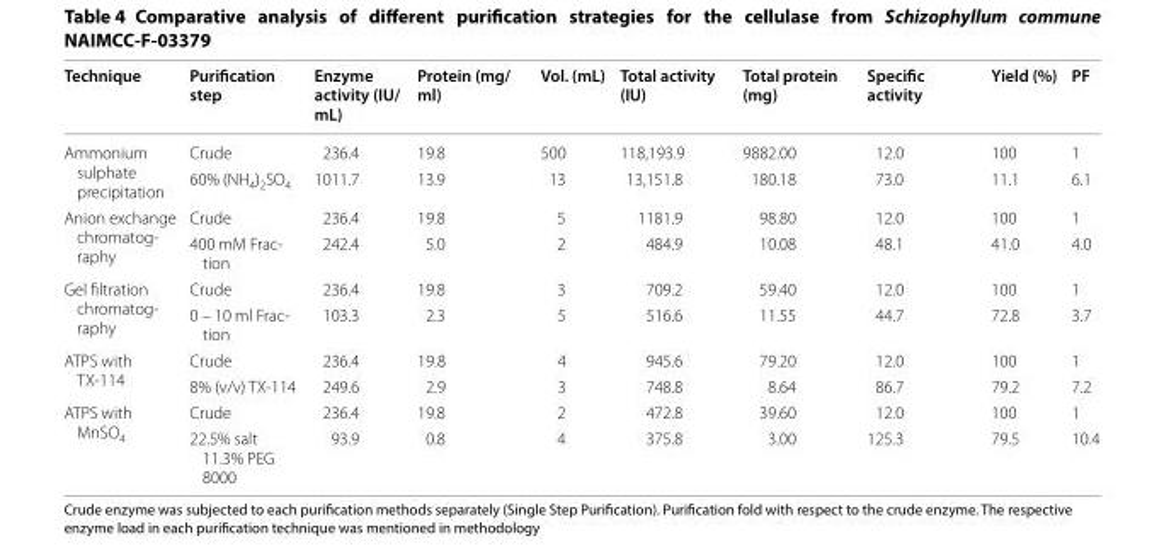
<table><thead><tr><td>Technique</td><td>Purification step</td><td>Enzyme activity (IU/ mL)</td><td>Protein (mg/ ml)</td><td>Vol. (mL)</td><td>Total activity (IU)</td><td>Total protein (mg)</td><td>Specific activity</td><td>Yield (%)</td><td>PF</td></tr></thead><tbody><tr><td rowspan="2">Ammonium sulphate precipitation</td><td>Crude</td><td>236.4</td><td>19.8</td><td>500</td><td>118,193.9</td><td>9882.00</td><td>12.0</td><td>100</td><td>1</td></tr><tr><td>60% (NH<sub>4</sub>)<sub>2</sub>SO<sub>4</sub></td><td>1011.7</td><td>13.9</td><td>13</td><td>13,151.8</td><td>180.18</td><td>73.0</td><td>11.1</td><td>6.1</td></tr><tr><td rowspan="2">Anion exchange chromatog- raphy</td><td>Crude</td><td>236.4</td><td>19.8</td><td>5</td><td>1181.9</td><td>98.80</td><td>12.0</td><td>100</td><td>1</td></tr><tr><td>400 mM Frac- tion</td><td>242.4</td><td>5.0</td><td>2</td><td>484.9</td><td>10.08</td><td>48.1</td><td>41.0</td><td>4.0</td></tr><tr><td rowspan="2">Gel filtration chromatog- raphy</td><td>Crude</td><td>236.4</td><td>19.8</td><td>3</td><td>709.2</td><td>59.40</td><td>12.0</td><td>100</td><td>1</td></tr><tr><td>0 – 10 ml Frac- tion</td><td>103.3</td><td>2.3</td><td>5</td><td>516.6</td><td>11.55</td><td>44.7</td><td>72.8</td><td>3.7</td></tr><tr><td rowspan="2">ATPS with TX-114</td><td>Crude</td><td>236.4</td><td>19.8</td><td>4</td><td>945.6</td><td>79.20</td><td>12.0</td><td>100</td><td>1</td></tr><tr><td>8% (v/v) TX-114</td><td>249.6</td><td>2.9</td><td>3</td><td>748.8</td><td>8.64</td><td>86.7</td><td>79.2</td><td>7.2</td></tr><tr><td rowspan="2">ATPS with MnSO<sub>4</sub></td><td>Crude</td><td>236.4</td><td>19.8</td><td>2</td><td>472.8</td><td>39.60</td><td>12.0</td><td>100</td><td>1</td></tr><tr><td>22.5% salt 11.3% PEG 8000</td><td>93.9</td><td>0.8</td><td>4</td><td>375.8</td><td>3.00</td><td>125.3</td><td>79.5</td><td>10.4</td></tr></tbody></table>